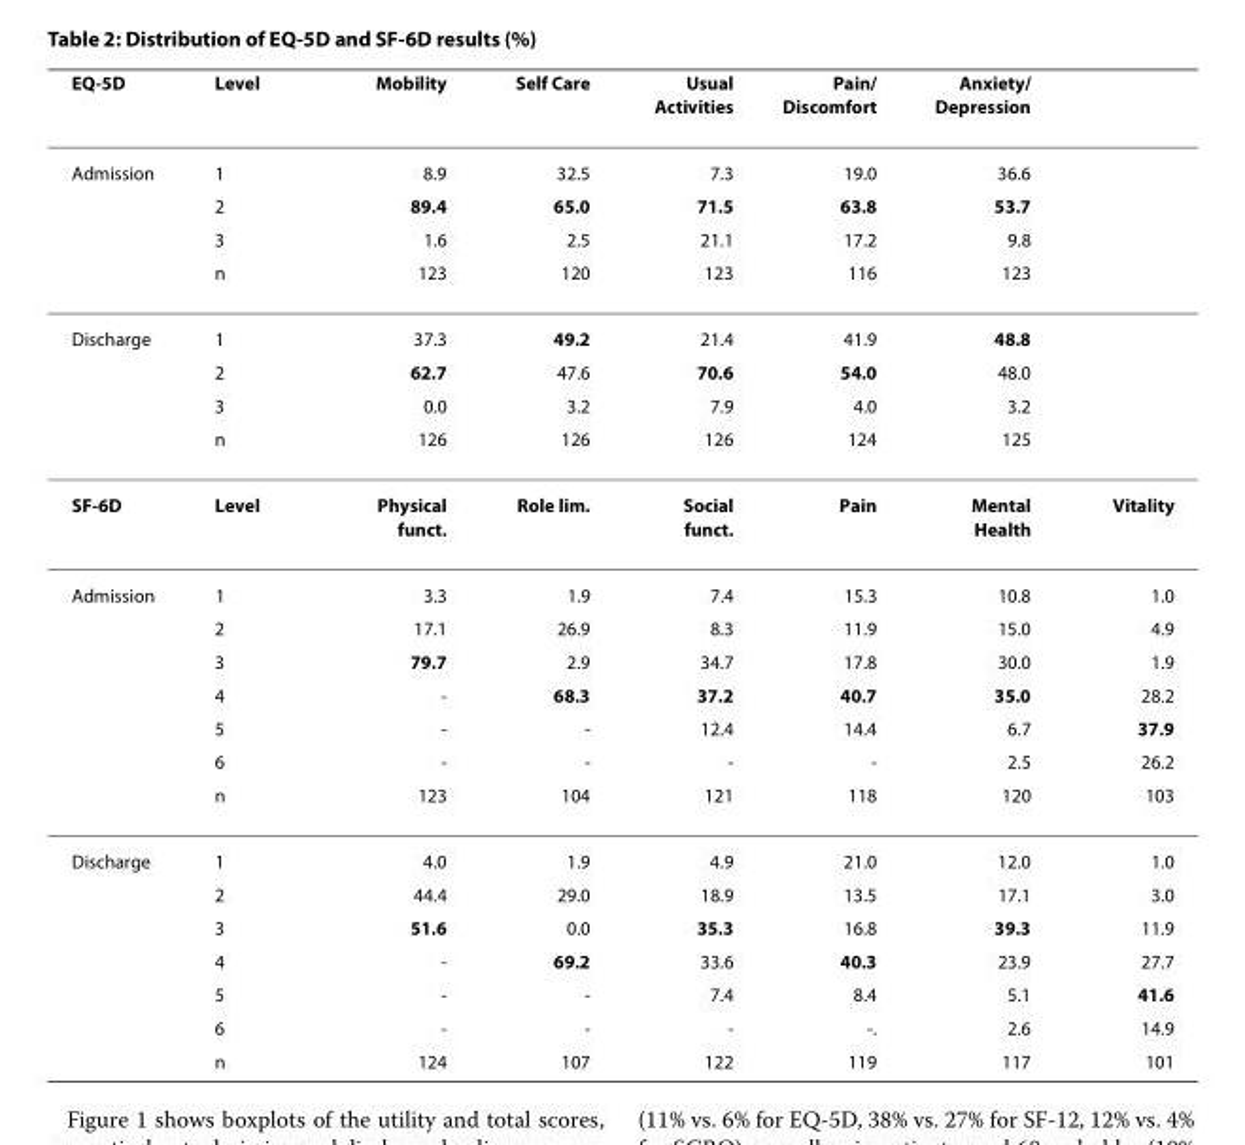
<table><thead><tr><td>EQ-5D</td><td>Level</td><td>Mobility</td><td>Self Care</td><td>Usual Activities</td><td>Pain/ Discomfort</td><td>Anxiety/ Depression</td><td></td></tr></thead><tbody><tr><td rowspan="4">Admission</td><td>1</td><td>8.9</td><td>32.5</td><td>7.3</td><td>19.0</td><td>36.6</td><td></td></tr><tr><td>2</td><td>89.4</td><td>65.0</td><td>71.5</td><td>63.8</td><td>53.7</td><td></td></tr><tr><td>3</td><td>1.6</td><td>2.5</td><td>21.1</td><td>17.2</td><td>9.8</td><td></td></tr><tr><td>n</td><td>123</td><td>120</td><td>123</td><td>116</td><td>123</td><td></td></tr><tr><td rowspan="4">Discharge</td><td>1</td><td>37.3</td><td>49.2</td><td>21.4</td><td>41.9</td><td>48.8</td><td></td></tr><tr><td>2</td><td>62.7</td><td>47.6</td><td>70.6</td><td>54.0</td><td>48.0</td><td></td></tr><tr><td>3</td><td>0.0</td><td>3.2</td><td>7.9</td><td>4.0</td><td>3.2</td><td></td></tr><tr><td>n</td><td>126</td><td>126</td><td>126</td><td>124</td><td>125</td><td></td></tr><tr><td>SF-6D</td><td>Level</td><td>Physical funct.</td><td>Role lim.</td><td>Social funct.</td><td>Pain</td><td>Mental Health</td><td>Vitality</td></tr><tr><td rowspan="7">Admission</td><td>1</td><td>3.3</td><td>1.9</td><td>7.4</td><td>15.3</td><td>10.8</td><td>1.0</td></tr><tr><td>2</td><td>17.1</td><td>26.9</td><td>8.3</td><td>11.9</td><td>15.0</td><td>4.9</td></tr><tr><td>3</td><td>79.7</td><td>2.9</td><td>34.7</td><td>17.8</td><td>30.0</td><td>1.9</td></tr><tr><td>4</td><td>-</td><td>68.3</td><td>37.2</td><td>40.7</td><td>35.0</td><td>28.2</td></tr><tr><td>5</td><td>-</td><td>-</td><td>12.4</td><td>14.4</td><td>6.7</td><td>37.9</td></tr><tr><td>6</td><td>-</td><td>-</td><td>-</td><td>-</td><td>2.5</td><td>26.2</td></tr><tr><td>n</td><td>123</td><td>104</td><td>121</td><td>118</td><td>120</td><td>103</td></tr><tr><td rowspan="7">Discharge</td><td>1</td><td>4.0</td><td>1.9</td><td>4.9</td><td>21.0</td><td>12.0</td><td>1.0</td></tr><tr><td>2</td><td>44.4</td><td>29.0</td><td>18.9</td><td>13.5</td><td>17.1</td><td>3.0</td></tr><tr><td>3</td><td>51.6</td><td>0.0</td><td>35.3</td><td>16.8</td><td>39.3</td><td>11.9</td></tr><tr><td>4</td><td>-</td><td>69.2</td><td>33.6</td><td>40.3</td><td>23.9</td><td>27.7</td></tr><tr><td>5</td><td>-</td><td>-</td><td>7.4</td><td>8.4</td><td>5.1</td><td>41.6</td></tr><tr><td>6</td><td>-</td><td>-</td><td>-</td><td>-.</td><td>2.6</td><td>14.9</td></tr><tr><td>n</td><td>124</td><td>107</td><td>122</td><td>119</td><td>117</td><td>101</td></tr></tbody></table>